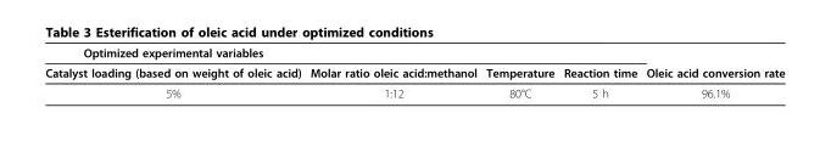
<table><thead><tr><td rowspan="2">Optimized experimental variables Catalyst loading (based on weight of oleic acid)</td><td rowspan="2">Molar ratio oleic acid:methanol</td><td rowspan="2">Temperature</td><td rowspan="2">Reaction time</td><td rowspan="2">Oleic acid conversion rate</td></tr><tr></tr></thead><tbody><tr><td>5%</td><td>1:12</td><td>80°C</td><td>5 h</td><td>96.1%</td></tr></tbody></table>